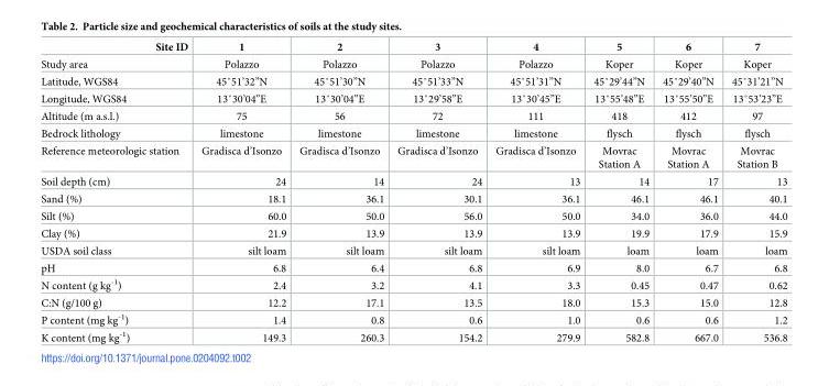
<table><thead><tr><td>Site ID</td><td>1</td><td>2</td><td>3</td><td>4</td><td>5</td><td>6</td><td>7</td></tr></thead><tbody><tr><td>Study area</td><td>Polazzo</td><td>Polazzo</td><td>Polazzo</td><td>Polazzo</td><td>Koper</td><td>Koper</td><td>Koper</td></tr><tr><td>Latitude, WGS84</td><td>45˚51’32”N</td><td>45˚51’30”N</td><td>45˚51’33”N</td><td>45˚51’31”N</td><td>45˚29’44”N</td><td>45˚29’40”N</td><td>45˚31’21”N</td></tr><tr><td>Longitude, WGS84</td><td>13˚30’04”E</td><td>13˚30’04”E</td><td>13˚29’58”E</td><td>13˚30’45”E</td><td>13˚55’48”E</td><td>13˚55’50”E</td><td>13˚53’23”E</td></tr><tr><td>Altitude (m a.s.l.)</td><td>75</td><td>56</td><td>72</td><td>111</td><td>418</td><td>412</td><td>97</td></tr><tr><td>Bedrock lithology</td><td>limestone</td><td>limestone</td><td>limestone</td><td>limestone</td><td>flysch</td><td>flysch</td><td>flysch</td></tr><tr><td>Reference meteorologic station</td><td>Gradisca d’Isonzo</td><td>Gradisca d’Isonzo</td><td>Gradisca d’Isonzo</td><td>Gradisca d’Isonzo</td><td>Movrac Station A</td><td>Movrac Station A</td><td>Movrac Station B</td></tr><tr><td>Soil depth (cm)</td><td>24</td><td>14</td><td>24</td><td>13</td><td>14</td><td>17</td><td>13</td></tr><tr><td>Sand (%)</td><td>18.1</td><td>36.1</td><td>30.1</td><td>36.1</td><td>46.1</td><td>46.1</td><td>40.1</td></tr><tr><td>Silt (%)</td><td>60.0</td><td>50.0</td><td>56.0</td><td>50.0</td><td>34.0</td><td>36.0</td><td>44.0</td></tr><tr><td>Clay (%)</td><td>21.9</td><td>13.9</td><td>13.9</td><td>13.9</td><td>19.9</td><td>17.9</td><td>15.9</td></tr><tr><td>USDA soil class</td><td>silt loam</td><td>silt loam</td><td>silt loam</td><td>silt loam</td><td>loam</td><td>loam</td><td>loam</td></tr><tr><td>pH</td><td>6.8</td><td>6.4</td><td>6.8</td><td>6.9</td><td>8.0</td><td>6.7</td><td>6.8</td></tr><tr><td>N content (g kg<sup>-1</sup>)</td><td>2.4</td><td>3.2</td><td>4.1</td><td>3.3</td><td>0.45</td><td>0.47</td><td>0.62</td></tr><tr><td>C:N (g/100 g)</td><td>12.2</td><td>17.1</td><td>13.5</td><td>18.0</td><td>15.3</td><td>15.0</td><td>12.8</td></tr><tr><td>P content (mg kg<sup>-1</sup>)</td><td>1.4</td><td>0.8</td><td>0.6</td><td>1.0</td><td>0.6</td><td>0.6</td><td>1.2</td></tr><tr><td>K content (mg kg<sup>-1</sup>)</td><td>149.3</td><td>260.3</td><td>154.2</td><td>279.9</td><td>582.8</td><td>667.0</td><td>536.8</td></tr></tbody></table>